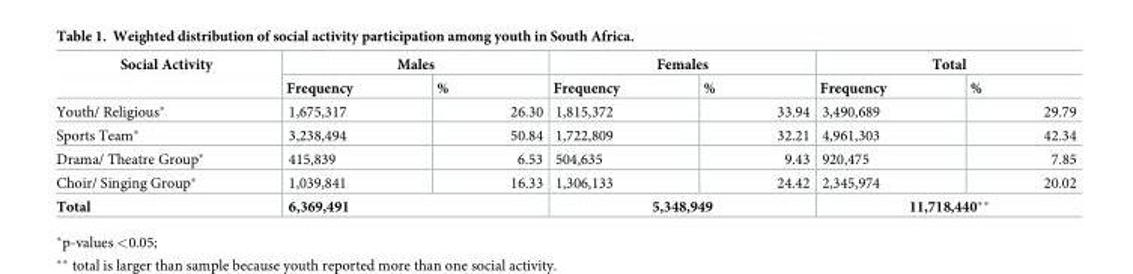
<table><thead><tr><td rowspan="2">Social Activity</td><td colspan="2">Males</td><td colspan="2">Females</td><td colspan="2">Total</td></tr><tr><td>Frequency</td><td>%</td><td>Frequency</td><td>%</td><td>Frequency</td><td>%</td></tr></thead><tbody><tr><td>Youth/ Religious*</td><td>1,675,317</td><td>26.30</td><td>1,815,372</td><td>33.94</td><td>3,490,689</td><td>29.79</td></tr><tr><td>Sports Team*</td><td>3,238,494</td><td>50.84</td><td>1,722,809</td><td>32.21</td><td>4,961,303</td><td>42.34</td></tr><tr><td>Drama/ Theatre Group*</td><td>415,839</td><td>6.53</td><td>504,635</td><td>9.43</td><td>920,475</td><td>7.85</td></tr><tr><td>Choir/ Singing Group*</td><td>1,039,841</td><td>16.33</td><td>1,306,133</td><td>24.42</td><td>2,345,974</td><td>20.02</td></tr><tr><td>Total</td><td colspan="2">6,369,491</td><td colspan="2">5,348,949</td><td colspan="2">11,718,440**</td></tr></tbody></table>